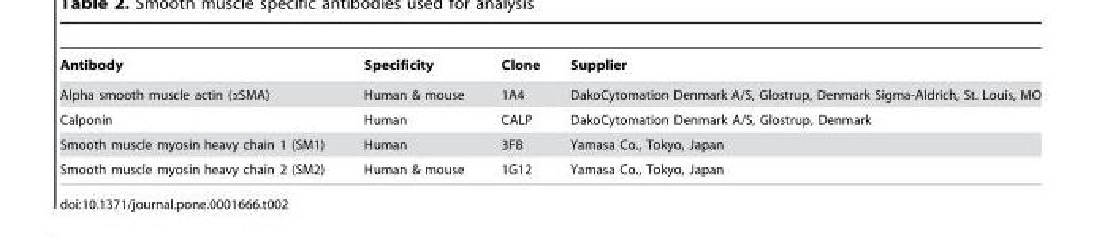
<table><thead><tr><td>Antibody</td><td>Specificity</td><td>Clone</td><td>Supplier</td></tr></thead><tbody><tr><td>Alpha smooth muscle actin (αSMA)</td><td>Human &amp; mouse</td><td>1A4</td><td>DakoCytomation Denmark A/S, Glostrup, Denmark Sigma-Aldrich, St. Louis, MO</td></tr><tr><td>Calponin</td><td>Human</td><td>CALP</td><td>DakoCytomation Denmark A/S, Glostrup, Denmark</td></tr><tr><td>Smooth muscle myosin heavy chain 1 (SM1)</td><td>Human</td><td>3FB</td><td>Yamasa Co., Tokyo, Japan</td></tr><tr><td>Smooth muscle myosin heavy chain 2 (SM2)</td><td>Human &amp; mouse</td><td>1G12</td><td>Yamasa Co., Tokyo, Japan</td></tr></tbody></table>